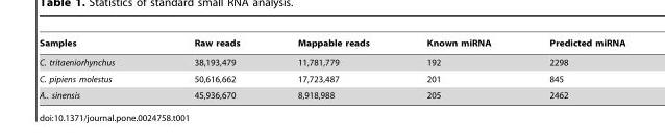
<table><thead><tr><td>Samples</td><td>Raw reads</td><td>Mappable reads</td><td>Known miRNA</td><td>Predicted miRNA</td></tr></thead><tbody><tr><td>C. tritaeniorhynchus</td><td>38,193,479</td><td>11,781,779</td><td>192</td><td>2298</td></tr><tr><td>C. pipiens molestus</td><td>50,616,662</td><td>17,723,487</td><td>201</td><td>845</td></tr><tr><td>A.. sinensis</td><td>45,936,670</td><td>8,918,988</td><td>205</td><td>2462</td></tr></tbody></table>